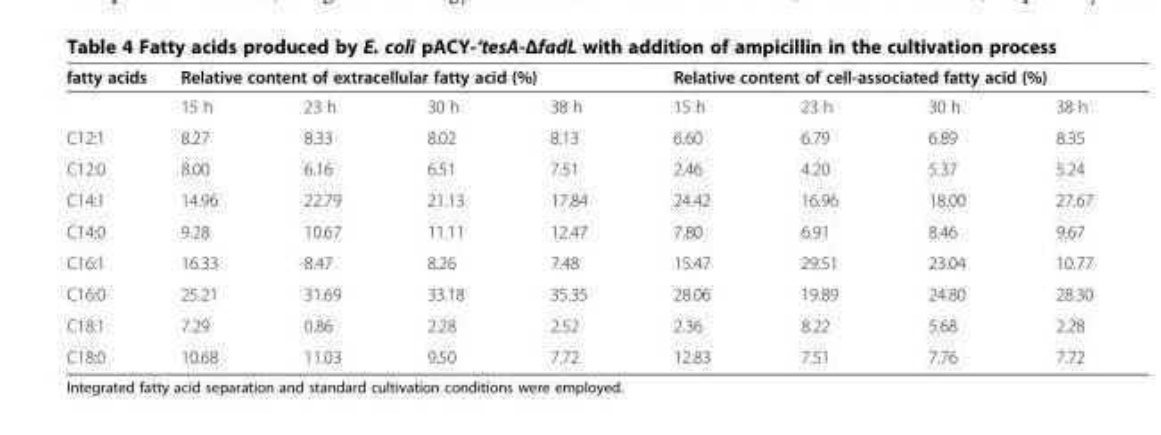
<table><thead><tr><td rowspan="2">fatty acids</td><td colspan="4">Relative content of extracellular fatty acid (%)</td><td colspan="4">Relative content of cell-associated fatty acid (%)</td></tr><tr><td>15 h</td><td>23 h</td><td>30 h</td><td>38 h</td><td>15 h</td><td>23 h</td><td>30 h</td><td>38 h</td></tr></thead><tbody><tr><td>C12:1</td><td>8.27</td><td>8.33</td><td>8.02</td><td>8.13</td><td>6.60</td><td>6.79</td><td>6.89</td><td>8.35</td></tr><tr><td>C12:0</td><td>8.00</td><td>6.16</td><td>6.51</td><td>7.51</td><td>2.46</td><td>4.20</td><td>5.37</td><td>5.24</td></tr><tr><td>C14:1</td><td>14.96</td><td>22.79</td><td>21.13</td><td>17.84</td><td>24.42</td><td>16.96</td><td>18.00</td><td>27.67</td></tr><tr><td>C14:0</td><td>9.28</td><td>10.67</td><td>11.11</td><td>12.47</td><td>7.80</td><td>6.91</td><td>8.46</td><td>9.67</td></tr><tr><td>C16:1</td><td>16.33</td><td>8.47</td><td>8.26</td><td>7.48</td><td>15.47</td><td>29.51</td><td>23.04</td><td>10.77</td></tr><tr><td>C16:0</td><td>25.21</td><td>31.69</td><td>33.18</td><td>35.35</td><td>28.06</td><td>19.89</td><td>24.80</td><td>28.30</td></tr><tr><td>C18:1</td><td>7.29</td><td>0.86</td><td>2.28</td><td>2.52</td><td>2.36</td><td>8.22</td><td>5.68</td><td>2.28</td></tr><tr><td>C18:0</td><td>10.68</td><td>11.03</td><td>9.50</td><td>7.72</td><td>12.83</td><td>7.51</td><td>7.76</td><td>7.72</td></tr></tbody></table>